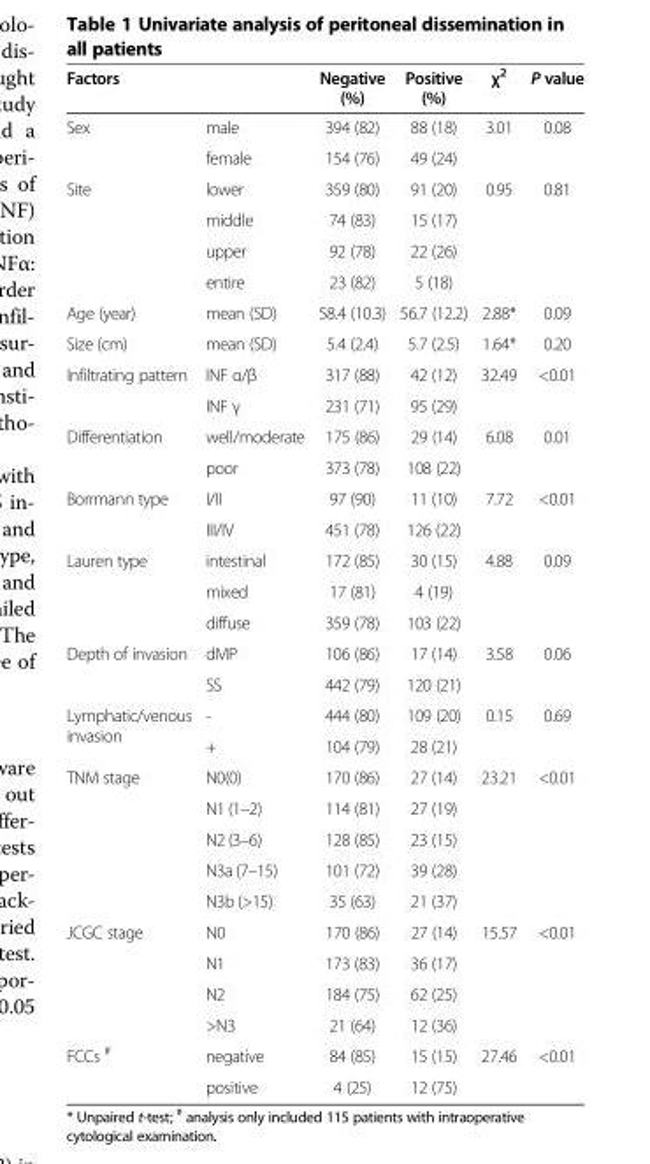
<table><thead><tr><td>Factors</td><td></td><td>Negative (%)</td><td>Positive (%)</td><td>χ<sup>2</sup></td><td>P value</td></tr></thead><tbody><tr><td rowspan="2">Sex</td><td>male</td><td>394 (82)</td><td>88 (18)</td><td rowspan="2">3.01</td><td rowspan="2">0.08</td></tr><tr><td>female</td><td>154 (76)</td><td>49 (24)</td></tr><tr><td rowspan="4">Site</td><td>lower</td><td>359 (80)</td><td>91 (20)</td><td rowspan="4">0.95</td><td rowspan="4">0.81</td></tr><tr><td>middle</td><td>74 (83)</td><td>15 (17)</td></tr><tr><td>upper</td><td>92 (78)</td><td>22 (26)</td></tr><tr><td>entire</td><td>23 (82)</td><td>5 (18)</td></tr><tr><td>Age (year)</td><td>mean (SD)</td><td>58.4 (10.3)</td><td>56.7 (12.2)</td><td>2.88*</td><td>0.09</td></tr><tr><td>Size (cm)</td><td>mean (SD)</td><td>5.4 (2.4)</td><td>5.7 (2.5)</td><td>1.64*</td><td>0.20</td></tr><tr><td rowspan="2">Infiltrating pattern</td><td>INF α/β</td><td>317 (88)</td><td>42 (12)</td><td>32.49</td><td>&lt;0.01</td></tr><tr><td>INF γ</td><td>231 (71)</td><td>95 (29)</td><td></td><td></td></tr><tr><td rowspan="2">Differentiation</td><td>well/moderate</td><td>175 (86)</td><td>29 (14)</td><td rowspan="2">6.08</td><td rowspan="2">0.01</td></tr><tr><td>poor</td><td>373 (78)</td><td>108 (22)</td></tr><tr><td rowspan="2">Borrmann type</td><td>I/II</td><td>97 (90)</td><td>11 (10)</td><td rowspan="2">7.72</td><td rowspan="2">&lt;0.01</td></tr><tr><td>III/IV</td><td>451 (78)</td><td>126 (22)</td></tr><tr><td rowspan="3">Lauren type</td><td>intestinal</td><td>172 (85)</td><td>30 (15)</td><td rowspan="2">4.88</td><td rowspan="2">0.09</td></tr><tr><td>mixed</td><td>17 (81)</td><td>4 (19)</td></tr><tr><td>diffuse</td><td>359 (78)</td><td>103 (22)</td><td></td><td></td></tr><tr><td rowspan="2">Depth of invasion</td><td>dMP</td><td>106 (86)</td><td>17 (14)</td><td>3.58</td><td>0.06</td></tr><tr><td>SS</td><td>442 (79)</td><td>120 (21)</td><td></td><td></td></tr><tr><td rowspan="2">Lymphatic/venous invasion</td><td>-</td><td>444 (80)</td><td>109 (20)</td><td rowspan="2">0.15</td><td rowspan="2">0.69</td></tr><tr><td>+</td><td>104 (79)</td><td>28 (21)</td></tr><tr><td rowspan="5">TNM stage</td><td>N0(0)</td><td>170 (86)</td><td>27 (14)</td><td rowspan="5">23.21</td><td rowspan="5">&lt;0.01</td></tr><tr><td>N1 (1–2)</td><td>114 (81)</td><td>27 (19)</td></tr><tr><td>N2 (3–6)</td><td>128 (85)</td><td>23 (15)</td></tr><tr><td>N3a (7–15)</td><td>101 (72)</td><td>39 (28)</td></tr><tr><td>N3b (&gt;15)</td><td>35 (63)</td><td>21 (37)</td></tr><tr><td rowspan="4">JCGC stage</td><td>N0</td><td>170 (86)</td><td>27 (14)</td><td rowspan="4">15.57</td><td rowspan="4">&lt;0.01</td></tr><tr><td>N1</td><td>173 (83)</td><td>36 (17)</td></tr><tr><td>N2</td><td>184 (75)</td><td>62 (25)</td></tr><tr><td>&gt;N3</td><td>21 (64)</td><td>12 (36)</td></tr><tr><td rowspan="2">FCCs <sup>#</sup></td><td>negative</td><td>84 (85)</td><td>15 (15)</td><td>27.46</td><td>&lt;0.01</td></tr><tr><td>positive</td><td>4 (25)</td><td>12 (75)</td><td></td><td></td></tr></tbody></table>